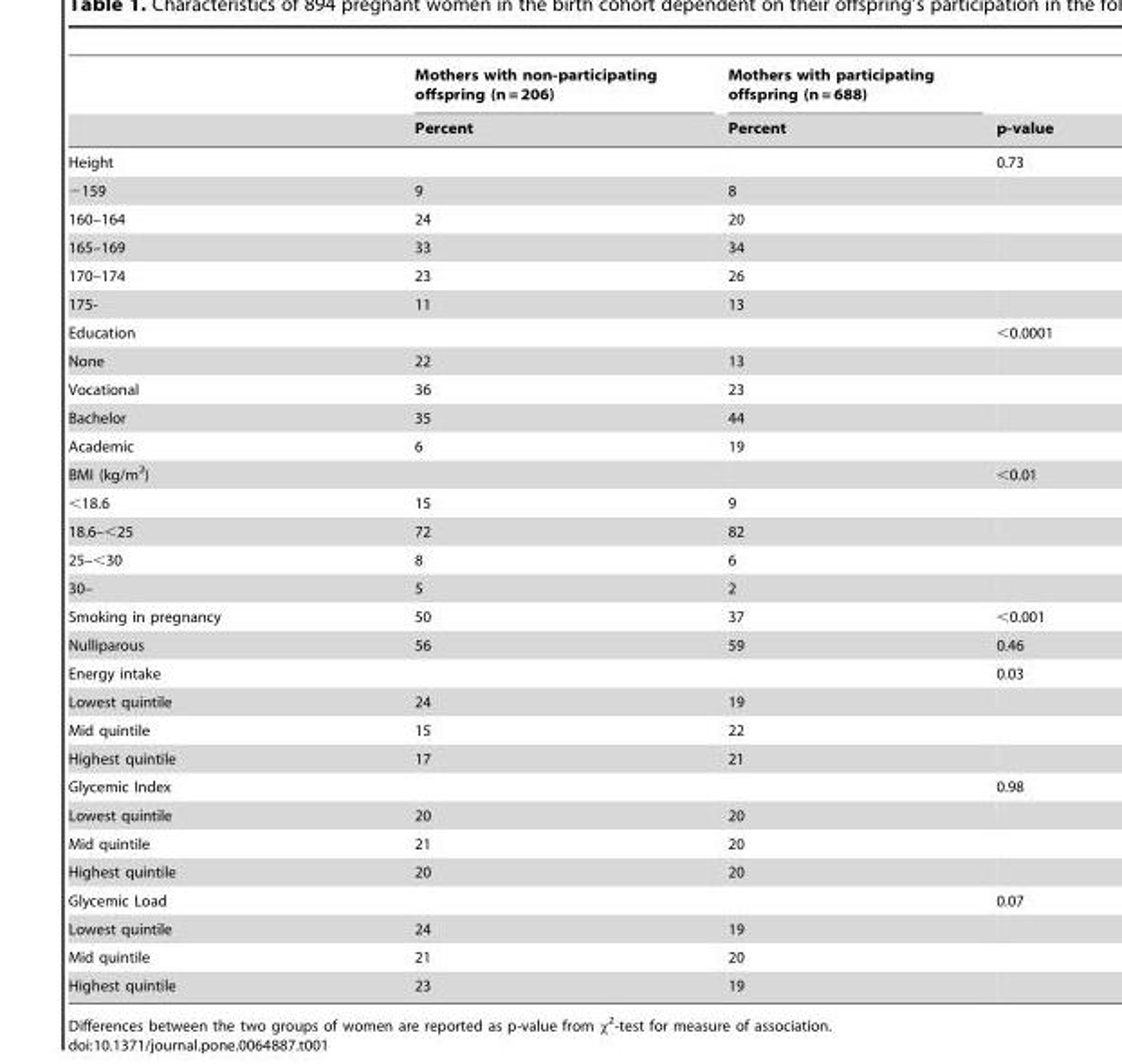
<table><thead><tr><td rowspan="2"></td><td rowspan="2">Mothers with non-participating offspring (n = 206) Percent</td><td rowspan="2">Mothers with participating offspring (n = 688) Percent</td><td rowspan="2">p-value</td></tr><tr></tr></thead><tbody><tr><td>Height</td><td></td><td></td><td>0.73</td></tr><tr><td>−159</td><td>9</td><td>8</td><td></td></tr><tr><td>160–164</td><td>24</td><td>20</td><td></td></tr><tr><td>165–169</td><td>33</td><td>34</td><td></td></tr><tr><td>170–174</td><td>23</td><td>26</td><td></td></tr><tr><td>175-</td><td>11</td><td>13</td><td></td></tr><tr><td>Education</td><td></td><td></td><td>&lt;0.0001</td></tr><tr><td>None</td><td>22</td><td>13</td><td></td></tr><tr><td>Vocational</td><td>36</td><td>23</td><td></td></tr><tr><td>Bachelor</td><td>35</td><td>44</td><td></td></tr><tr><td>Academic</td><td>6</td><td>19</td><td></td></tr><tr><td>BMI (kg/m<sup>2</sup>)</td><td></td><td></td><td>&lt;0.01</td></tr><tr><td>&lt;18.6</td><td>15</td><td>9</td><td></td></tr><tr><td>18.6–&lt;25</td><td>72</td><td>82</td><td></td></tr><tr><td>25–&lt;30</td><td>8</td><td>6</td><td></td></tr><tr><td>30–</td><td>5</td><td>2</td><td></td></tr><tr><td>Smoking in pregnancy</td><td>50</td><td>37</td><td>&lt;0.001</td></tr><tr><td>Nulliparous</td><td>56</td><td>59</td><td>0.46</td></tr><tr><td>Energy intake</td><td></td><td></td><td>0.03</td></tr><tr><td>Lowest quintile</td><td>24</td><td>19</td><td></td></tr><tr><td>Mid quintile</td><td>15</td><td>22</td><td></td></tr><tr><td>Highest quintile</td><td>17</td><td>21</td><td></td></tr><tr><td>Glycemic Index</td><td></td><td></td><td>0.98</td></tr><tr><td>Lowest quintile</td><td>20</td><td>20</td><td></td></tr><tr><td>Mid quintile</td><td>21</td><td>20</td><td></td></tr><tr><td>Highest quintile</td><td>20</td><td>20</td><td></td></tr><tr><td>Glycemic Load</td><td></td><td></td><td>0.07</td></tr><tr><td>Lowest quintile</td><td>24</td><td>19</td><td></td></tr><tr><td>Mid quintile</td><td>21</td><td>20</td><td></td></tr><tr><td>Highest quintile</td><td>23</td><td>19</td><td></td></tr></tbody></table>